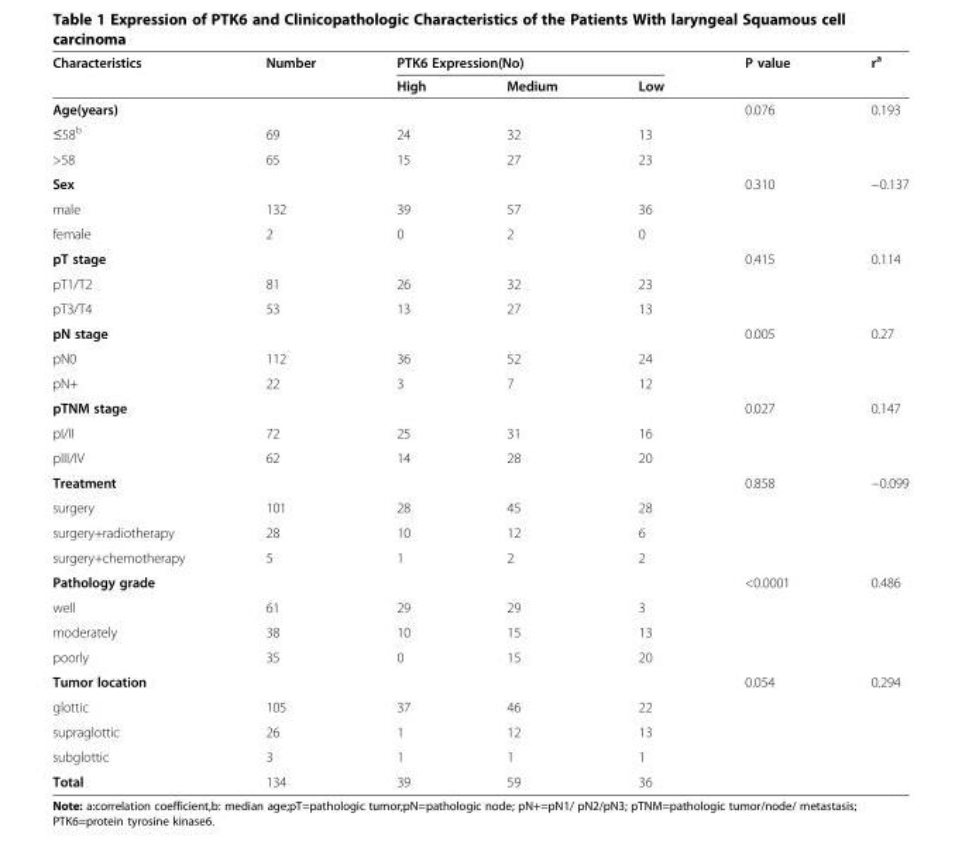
<table><thead><tr><td rowspan="2">Characteristics</td><td rowspan="2">Number</td><td colspan="3">PTK6 Expression(No)</td><td rowspan="2">P value</td><td rowspan="2">r<sup>a</sup></td></tr><tr><td>High</td><td>Medium</td><td>Low</td></tr></thead><tbody><tr><td>Age(years)</td><td></td><td></td><td></td><td></td><td>0.076</td><td>0.193</td></tr><tr><td>≤58<sup>b</sup></td><td>69</td><td>24</td><td>32</td><td>13</td><td></td><td></td></tr><tr><td>&gt;58</td><td>65</td><td>15</td><td>27</td><td>23</td><td></td><td></td></tr><tr><td>Sex</td><td></td><td></td><td></td><td></td><td>0.310</td><td>−0.137</td></tr><tr><td>male</td><td>132</td><td>39</td><td>57</td><td>36</td><td></td><td></td></tr><tr><td>female</td><td>2</td><td>0</td><td>2</td><td>0</td><td></td><td></td></tr><tr><td>pT stage</td><td></td><td></td><td></td><td></td><td>0.415</td><td>0.114</td></tr><tr><td>pT1/T2</td><td>81</td><td>26</td><td>32</td><td>23</td><td></td><td></td></tr><tr><td>pT3/T4</td><td>53</td><td>13</td><td>27</td><td>13</td><td></td><td></td></tr><tr><td>pN stage</td><td></td><td></td><td></td><td></td><td>0.005</td><td>0.27</td></tr><tr><td>pN0</td><td>112</td><td>36</td><td>52</td><td>24</td><td></td><td></td></tr><tr><td>pN+</td><td>22</td><td>3</td><td>7</td><td>12</td><td></td><td></td></tr><tr><td>pTNM stage</td><td></td><td></td><td></td><td></td><td>0.027</td><td>0.147</td></tr><tr><td>pI/II</td><td>72</td><td>25</td><td>31</td><td>16</td><td></td><td></td></tr><tr><td>pIII/IV</td><td>62</td><td>14</td><td>28</td><td>20</td><td></td><td></td></tr><tr><td>Treatment</td><td></td><td></td><td></td><td></td><td>0.858</td><td>−0.099</td></tr><tr><td>surgery</td><td>101</td><td>28</td><td>45</td><td>28</td><td></td><td></td></tr><tr><td>surgery+radiotherapy</td><td>28</td><td>10</td><td>12</td><td>6</td><td></td><td></td></tr><tr><td>surgery+chemotherapy</td><td>5</td><td>1</td><td>2</td><td>2</td><td></td><td></td></tr><tr><td>Pathology grade</td><td></td><td></td><td></td><td></td><td>&lt;0.0001</td><td>0.486</td></tr><tr><td>well</td><td>61</td><td>29</td><td>29</td><td>3</td><td></td><td></td></tr><tr><td>moderately</td><td>38</td><td>10</td><td>15</td><td>13</td><td></td><td></td></tr><tr><td>poorly</td><td>35</td><td>0</td><td>15</td><td>20</td><td></td><td></td></tr><tr><td>Tumor location</td><td></td><td></td><td></td><td></td><td>0.054</td><td>0.294</td></tr><tr><td>glottic</td><td>105</td><td>37</td><td>46</td><td>22</td><td></td><td></td></tr><tr><td>supraglottic</td><td>26</td><td>1</td><td>12</td><td>13</td><td></td><td></td></tr><tr><td>subglottic</td><td>3</td><td>1</td><td>1</td><td>1</td><td></td><td></td></tr><tr><td>Total</td><td>134</td><td>39</td><td>59</td><td>36</td><td></td><td></td></tr></tbody></table>